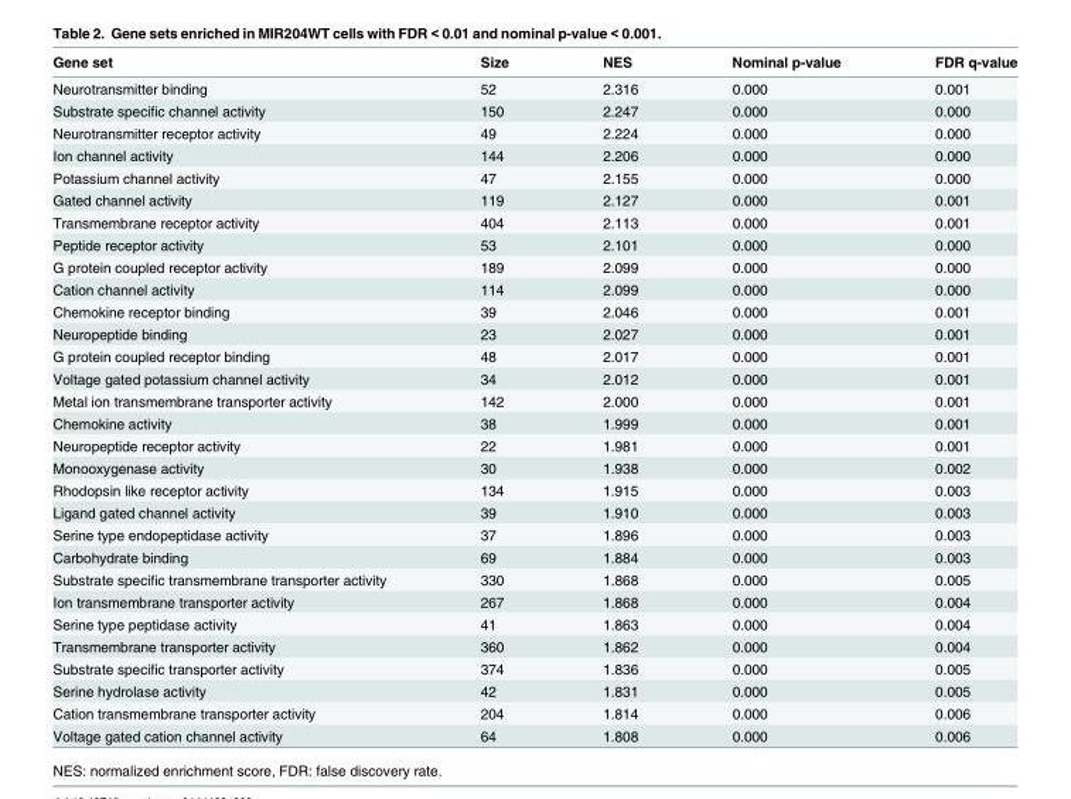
<table><thead><tr><td>Gene set</td><td>Size</td><td>NES</td><td>Nominal p-value</td><td>FDR q-value</td></tr></thead><tbody><tr><td>Neurotransmitter binding</td><td>52</td><td>2.316</td><td>0.000</td><td>0.001</td></tr><tr><td>Substrate specific channel activity</td><td>150</td><td>2.247</td><td>0.000</td><td>0.000</td></tr><tr><td>Neurotransmitter receptor activity</td><td>49</td><td>2.224</td><td>0.000</td><td>0.000</td></tr><tr><td>Ion channel activity</td><td>144</td><td>2.206</td><td>0.000</td><td>0.000</td></tr><tr><td>Potassium channel activity</td><td>47</td><td>2.155</td><td>0.000</td><td>0.000</td></tr><tr><td>Gated channel activity</td><td>119</td><td>2.127</td><td>0.000</td><td>0.001</td></tr><tr><td>Transmembrane receptor activity</td><td>404</td><td>2.113</td><td>0.000</td><td>0.001</td></tr><tr><td>Peptide receptor activity</td><td>53</td><td>2.101</td><td>0.000</td><td>0.000</td></tr><tr><td>G protein coupled receptor activity</td><td>189</td><td>2.099</td><td>0.000</td><td>0.000</td></tr><tr><td>Cation channel activity</td><td>114</td><td>2.099</td><td>0.000</td><td>0.000</td></tr><tr><td>Chemokine receptor binding</td><td>39</td><td>2.046</td><td>0.000</td><td>0.001</td></tr><tr><td>Neuropeptide binding</td><td>23</td><td>2.027</td><td>0.000</td><td>0.001</td></tr><tr><td>G protein coupled receptor binding</td><td>48</td><td>2.017</td><td>0.000</td><td>0.001</td></tr><tr><td>Voltage gated potassium channel activity</td><td>34</td><td>2.012</td><td>0.000</td><td>0.001</td></tr><tr><td>Metal ion transmembrane transporter activity</td><td>142</td><td>2.000</td><td>0.000</td><td>0.001</td></tr><tr><td>Chemokine activity</td><td>38</td><td>1.999</td><td>0.000</td><td>0.001</td></tr><tr><td>Neuropeptide receptor activity</td><td>22</td><td>1.981</td><td>0.000</td><td>0.001</td></tr><tr><td>Monooxygenase activity</td><td>30</td><td>1.938</td><td>0.000</td><td>0.002</td></tr><tr><td>Rhodopsin like receptor activity</td><td>134</td><td>1.915</td><td>0.000</td><td>0.003</td></tr><tr><td>Ligand gated channel activity</td><td>39</td><td>1.910</td><td>0.000</td><td>0.003</td></tr><tr><td>Serine type endopeptidase activity</td><td>37</td><td>1.896</td><td>0.000</td><td>0.003</td></tr><tr><td>Carbohydrate binding</td><td>69</td><td>1.884</td><td>0.000</td><td>0.003</td></tr><tr><td>Substrate specific transmembrane transporter activity</td><td>330</td><td>1.868</td><td>0.000</td><td>0.005</td></tr><tr><td>Ion transmembrane transporter activity</td><td>267</td><td>1.868</td><td>0.000</td><td>0.004</td></tr><tr><td>Serine type peptidase activity</td><td>41</td><td>1.863</td><td>0.000</td><td>0.004</td></tr><tr><td>Transmembrane transporter activity</td><td>360</td><td>1.862</td><td>0.000</td><td>0.004</td></tr><tr><td>Substrate specific transporter activity</td><td>374</td><td>1.836</td><td>0.000</td><td>0.005</td></tr><tr><td>Serine hydrolase activity</td><td>42</td><td>1.831</td><td>0.000</td><td>0.005</td></tr><tr><td>Cation transmembrane transporter activity</td><td>204</td><td>1.814</td><td>0.000</td><td>0.006</td></tr><tr><td>Voltage gated cation channel activity</td><td>64</td><td>1.808</td><td>0.000</td><td>0.006</td></tr></tbody></table>